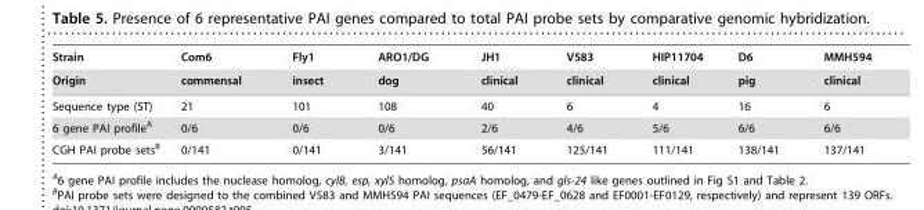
<table><thead><tr><td rowspan="2">Strain Origin</td><td rowspan="2">Com6 commensal</td><td rowspan="2">Fly1 insect</td><td rowspan="2">ARO1/DG dog</td><td rowspan="2">JH1 clinical</td><td rowspan="2">V583 clinical</td><td rowspan="2">HIP11704 clinical</td><td rowspan="2">D6 pig</td><td rowspan="2">MMH594 clinical</td></tr><tr></tr></thead><tbody><tr><td>Sequence type (ST)</td><td>21</td><td>101</td><td>108</td><td>40</td><td>6</td><td>4</td><td>16</td><td>6</td></tr><tr><td>6 gene PAI profile<sup>A</sup></td><td>0/6</td><td>0/6</td><td>0/6</td><td>2/6</td><td>4/6</td><td>5/6</td><td>6/6</td><td>6/6</td></tr><tr><td>CGH PAI probe sets<sup>B</sup></td><td>0/141</td><td>0/141</td><td>3/141</td><td>56/141</td><td>125/141</td><td>111/141</td><td>138/141</td><td>137/141</td></tr></tbody></table>